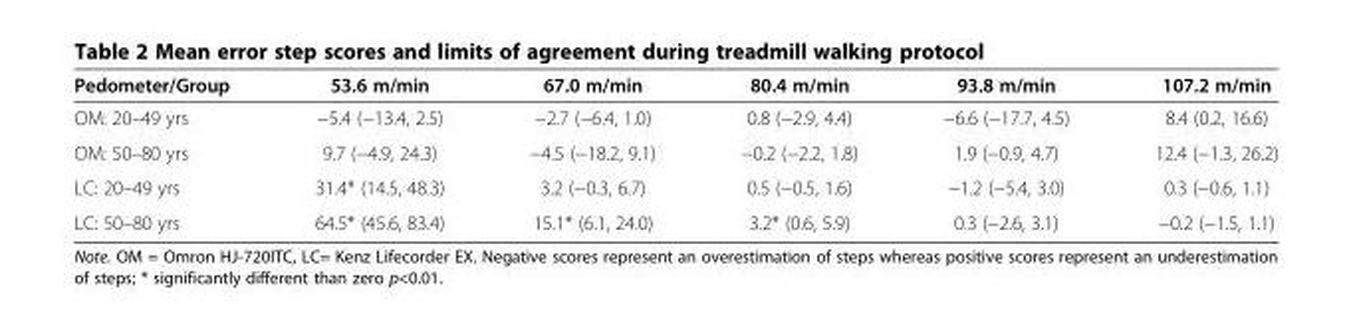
<table><thead><tr><td>Pedometer/Group</td><td>53.6 m/min</td><td>67.0 m/min</td><td>80.4 m/min</td><td>93.8 m/min</td><td>107.2 m/min</td></tr></thead><tbody><tr><td>OM: 20–49 yrs</td><td>−5.4 (−13.4, 2.5)</td><td>−2.7 (−6.4, 1.0)</td><td>0.8 (−2.9, 4.4)</td><td>−6.6 (−17.7, 4.5)</td><td>8.4 (0.2, 16.6)</td></tr><tr><td>OM: 50–80 yrs</td><td>9.7 (−4.9, 24.3)</td><td>−4.5 (−18.2, 9.1)</td><td>−0.2 (−2.2, 1.8)</td><td>1.9 (−0.9, 4.7)</td><td>12.4 (−1.3, 26.2)</td></tr><tr><td>LC: 20–49 yrs</td><td>31.4* (14.5, 48.3)</td><td>3.2 (−0.3, 6.7)</td><td>0.5 (−0.5, 1.6)</td><td>−1.2 (−5.4, 3.0)</td><td>0.3 (−0.6, 1.1)</td></tr><tr><td>LC: 50–80 yrs</td><td>64.5* (45.6, 83.4)</td><td>15.1* (6.1, 24.0)</td><td>3.2* (0.6, 5.9)</td><td>0.3 (−2.6, 3.1)</td><td>−0.2 (−1.5, 1.1)</td></tr></tbody></table>